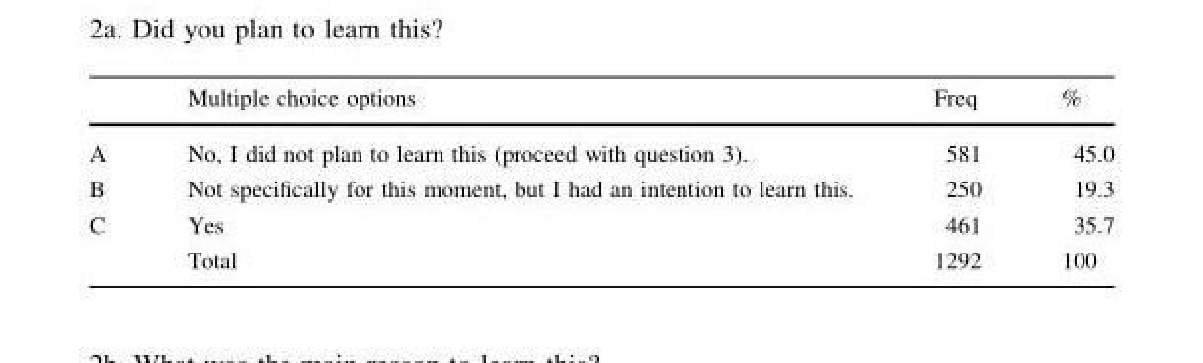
<table><thead><tr><td></td><td>Multiple choice options</td><td>Freq</td><td>%</td></tr></thead><tbody><tr><td>A</td><td>No, I did not plan to learn this (proceed with question 3).</td><td>581</td><td>45.0</td></tr><tr><td>B</td><td>Not specifically for this moment, but I had an intention to learn this.</td><td>250</td><td>19.3</td></tr><tr><td rowspan="2">C</td><td>Yes</td><td>461</td><td>35.7</td></tr><tr><td>Total</td><td>1292</td><td>100</td></tr></tbody></table>